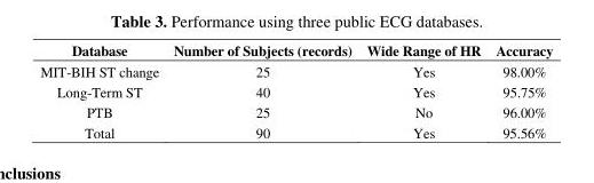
<table><thead><tr><td>Database</td><td>Number of Subjects (records)</td><td>Wide Range of HR</td><td>Accuracy</td></tr></thead><tbody><tr><td>MIT-BIH ST change</td><td>25</td><td>Yes</td><td>98.00%</td></tr><tr><td>Long-Term ST</td><td>40</td><td>Yes</td><td>95.75%</td></tr><tr><td>PTB</td><td>25</td><td>No</td><td>96.00%</td></tr><tr><td>Total</td><td>90</td><td>Yes</td><td>95.56%</td></tr></tbody></table>